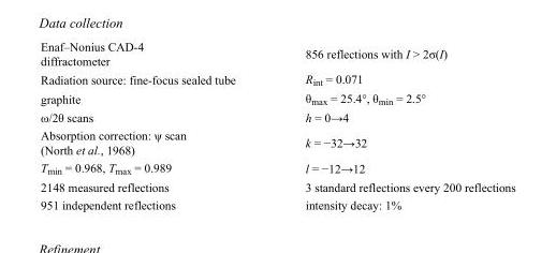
<table><tbody><tr><td>Enaf–Nonius CAD-4 diffractometer</td><td>856 reflections with I &gt; 2σ(I)</td></tr><tr><td>Radiation source: fine-focus sealed tube</td><td>R<sub>int</sub> = 0.071</td></tr><tr><td>graphite</td><td>θ<sub>max</sub> = 25.4°, θ<sub>min</sub> = 2.5°</td></tr><tr><td>ω/2θ scans</td><td>h = 0→4</td></tr><tr><td>Absorption correction: ψ scan (North et al., 1968)</td><td>k = −32→32</td></tr><tr><td>T<sub>min</sub> = 0.968, T<sub>max</sub> = 0.989</td><td>l = −12→12</td></tr><tr><td>2148 measured reflections</td><td>3 standard reflections every 200 reflections</td></tr><tr><td>951 independent reflections</td><td>intensity decay: 1%</td></tr></tbody></table>